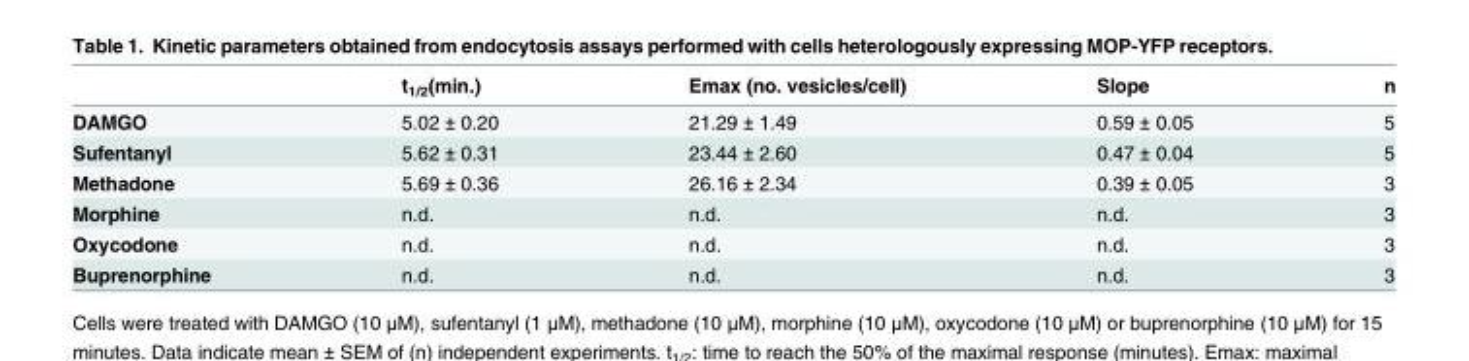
<table><thead><tr><td></td><td>t<sub>1/2</sub>(min.)</td><td>Emax (no. vesicles/cell)</td><td>Slope</td><td>n</td></tr></thead><tbody><tr><td>DAMGO</td><td>5.02 ± 0.20</td><td>21.29 ± 1.49</td><td>0.59 ± 0.05</td><td>5</td></tr><tr><td>Sufentanyl</td><td>5.62 ± 0.31</td><td>23.44 ± 2.60</td><td>0.47 ± 0.04</td><td>5</td></tr><tr><td>Methadone</td><td>5.69 ± 0.36</td><td>26.16 ± 2.34</td><td>0.39 ± 0.05</td><td>3</td></tr><tr><td>Morphine</td><td>n.d.</td><td>n.d.</td><td>n.d.</td><td>3</td></tr><tr><td>Oxycodone</td><td>n.d.</td><td>n.d.</td><td>n.d.</td><td>3</td></tr><tr><td>Buprenorphine</td><td>n.d.</td><td>n.d.</td><td>n.d.</td><td>3</td></tr></tbody></table>